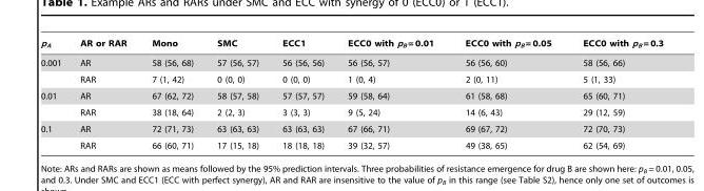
<table><thead><tr><td>p<sub>A</sub></td><td>AR or RAR</td><td>Mono</td><td>SMC</td><td>ECC1</td><td>ECC0 with p<sub>B</sub> = 0.01</td><td>ECC0 with p<sub>B</sub> = 0.05</td><td>ECC0 with p<sub>B</sub> = 0.3</td></tr></thead><tbody><tr><td rowspan="2">0.001</td><td>AR</td><td>58 (56, 68)</td><td>57 (56, 57)</td><td>56 (56, 56)</td><td>56 (56, 57)</td><td>56 (56, 60)</td><td>58 (56, 66)</td></tr><tr><td>RAR</td><td>7 (1, 42)</td><td>0 (0, 0)</td><td>0 (0, 0)</td><td>1 (0, 4)</td><td>2 (0, 11)</td><td>5 (1, 33)</td></tr><tr><td rowspan="2">0.01</td><td>AR</td><td>67 (62, 72)</td><td>58 (57, 58)</td><td>57 (57, 57)</td><td>59 (58, 64)</td><td>61 (58, 68)</td><td>65 (60, 71)</td></tr><tr><td>RAR</td><td>38 (18, 64)</td><td>2 (2, 3)</td><td>3 (3, 3)</td><td>9 (5, 24)</td><td>14 (6, 43)</td><td>29 (12, 59)</td></tr><tr><td rowspan="2">0.1</td><td>AR</td><td>72 (71, 73)</td><td>63 (63, 63)</td><td>63 (63, 63)</td><td>67 (66, 71)</td><td>69 (67, 72)</td><td>72 (70, 73)</td></tr><tr><td>RAR</td><td>66 (60, 71)</td><td>17 (15, 18)</td><td>18 (18, 18)</td><td>39 (32, 57)</td><td>49 (38, 65)</td><td>62 (54, 69)</td></tr></tbody></table>